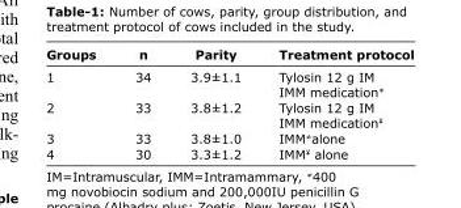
<table><thead><tr><td>Groups</td><td>n</td><td>Parity</td><td>Treatment protocol</td></tr></thead><tbody><tr><td>1</td><td>34</td><td>3.9±1.1</td><td>Tylosin 12 g IM IMM medication<sup>≠</sup></td></tr><tr><td>2</td><td>33</td><td>3.8±1.2</td><td>Tylosin 12 g IM IMM medication<sup>¥</sup></td></tr><tr><td>3</td><td>33</td><td>3.8±1.0</td><td>IMM<sup>≠</sup>alone</td></tr><tr><td>4</td><td>30</td><td>3.3±1.2</td><td>IMM<sup>¥</sup> alone</td></tr></tbody></table>